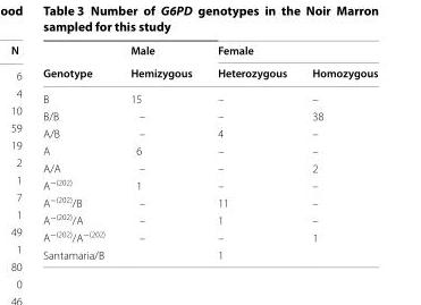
<table><thead><tr><td rowspan="2">Genotype</td><td rowspan="2">Male Hemizygous</td><td colspan="2">Female</td></tr><tr><td>Heterozygous</td><td>Homozygous</td></tr></thead><tbody><tr><td>B</td><td>15</td><td>–</td><td>–</td></tr><tr><td>B/B</td><td>–</td><td>–</td><td>38</td></tr><tr><td>A/B</td><td>–</td><td>4</td><td>–</td></tr><tr><td>A</td><td>6</td><td>–</td><td>–</td></tr><tr><td>A/A</td><td>–</td><td>–</td><td>2</td></tr><tr><td>A<sup>−(202)</sup></td><td>1</td><td>–</td><td>–</td></tr><tr><td>A<sup>−(202)</sup>/B</td><td>–</td><td>11</td><td>–</td></tr><tr><td>A<sup>−(202)</sup>/A</td><td>–</td><td>1</td><td>–</td></tr><tr><td>A<sup>−(202)</sup>/A<sup>−(202)</sup></td><td>–</td><td>–</td><td>1</td></tr><tr><td>Santamaria/B</td><td></td><td>1</td><td></td></tr></tbody></table>